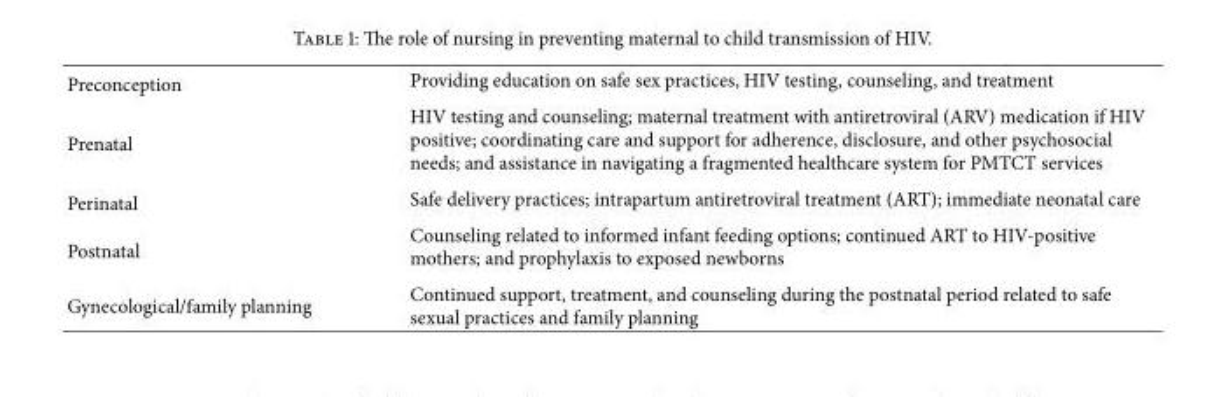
<table><tbody><tr><td>Preconception</td><td>Providing education on safe sex practices, HIV testing, counseling, and treatment</td></tr><tr><td>Prenatal</td><td>HIV testing and counseling; maternal treatment with antiretroviral (ARV) medication if HIV positive; coordinating care and support for adherence, disclosure, and other psychosocial needs; and assistance in navigating a fragmented healthcare system for PMTCT services</td></tr><tr><td>Perinatal</td><td>Safe delivery practices; intrapartum antiretroviral treatment (ART); immediate neonatal care</td></tr><tr><td>Postnatal</td><td>Counseling related to informed infant feeding options; continued ART to HIV-positive mothers; and prophylaxis to exposed newborns</td></tr><tr><td>Gynecological/family planning</td><td>Continued support, treatment, and counseling during the postnatal period related to safe sexual practices and family planning</td></tr></tbody></table>